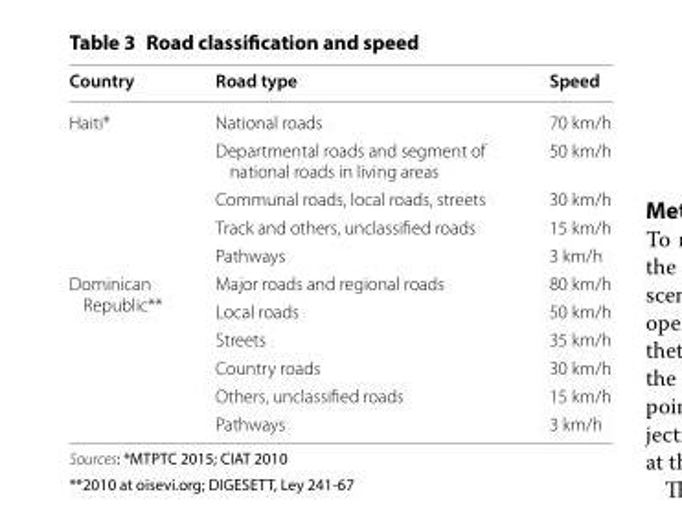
<table><thead><tr><td>Country</td><td>Road type</td><td>Speed</td></tr></thead><tbody><tr><td rowspan="5">Haiti*</td><td>National roads</td><td>70 km/h</td></tr><tr><td>Departmental roads and segment of national roads in living areas</td><td>50 km/h</td></tr><tr><td>Communal roads, local roads, streets</td><td>30 km/h</td></tr><tr><td>Track and others, unclassified roads</td><td>15 km/h</td></tr><tr><td>Pathways</td><td>3 km/h</td></tr><tr><td rowspan="6">Dominican Republic**</td><td>Major roads and regional roads</td><td>80 km/h</td></tr><tr><td>Local roads</td><td>50 km/h</td></tr><tr><td>Streets</td><td>35 km/h</td></tr><tr><td>Country roads</td><td>30 km/h</td></tr><tr><td>Others, unclassified roads</td><td>15 km/h</td></tr><tr><td>Pathways</td><td>3 km/h</td></tr></tbody></table>